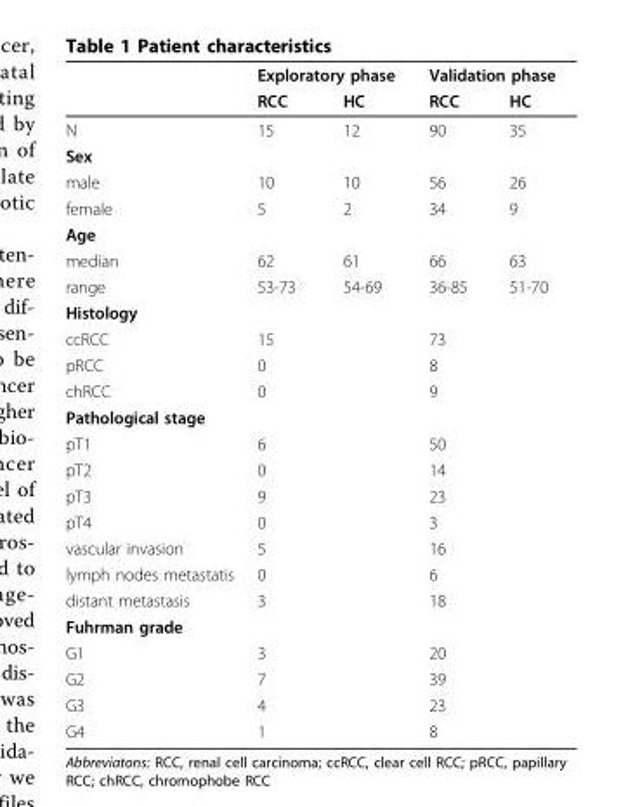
<table><thead><tr><td rowspan="2"></td><td colspan="2">Exploratory phase</td><td colspan="2">Validation phase</td></tr><tr><td>RCC</td><td>HC</td><td>RCC</td><td>HC</td></tr></thead><tbody><tr><td>N</td><td>15</td><td>12</td><td>90</td><td>35</td></tr><tr><td colspan="5">Sex</td></tr><tr><td>male</td><td>10</td><td>10</td><td>56</td><td>26</td></tr><tr><td>female</td><td>5</td><td>2</td><td>34</td><td>9</td></tr><tr><td colspan="5">Age</td></tr><tr><td>median</td><td>62</td><td>61</td><td>66</td><td>63</td></tr><tr><td>range</td><td>53-73</td><td>54-69</td><td>36-85</td><td>51-70</td></tr><tr><td colspan="5">Histology</td></tr><tr><td>ccRCC</td><td colspan="2">15</td><td colspan="2">73</td></tr><tr><td>pRCC</td><td colspan="2">0</td><td colspan="2">8</td></tr><tr><td>chRCC</td><td colspan="2">0</td><td colspan="2">9</td></tr><tr><td colspan="5">Pathological stage</td></tr><tr><td>pT1</td><td colspan="2">6</td><td colspan="2">50</td></tr><tr><td>pT2</td><td colspan="2">0</td><td colspan="2">14</td></tr><tr><td>pT3</td><td colspan="2">9</td><td colspan="2">23</td></tr><tr><td>pT4</td><td colspan="2">0</td><td colspan="2">3</td></tr><tr><td>vascular invasion</td><td colspan="2">5</td><td colspan="2">16</td></tr><tr><td>lymph nodes metastatis</td><td colspan="2">0</td><td colspan="2">6</td></tr><tr><td>distant metastasis</td><td colspan="2">3</td><td colspan="2">18</td></tr><tr><td colspan="5">Fuhrman grade</td></tr><tr><td>G1</td><td colspan="2">3</td><td colspan="2">20</td></tr><tr><td>G2</td><td colspan="2">7</td><td colspan="2">39</td></tr><tr><td>G3</td><td colspan="2">4</td><td colspan="2">23</td></tr><tr><td>G4</td><td colspan="2">1</td><td colspan="2">8</td></tr></tbody></table>